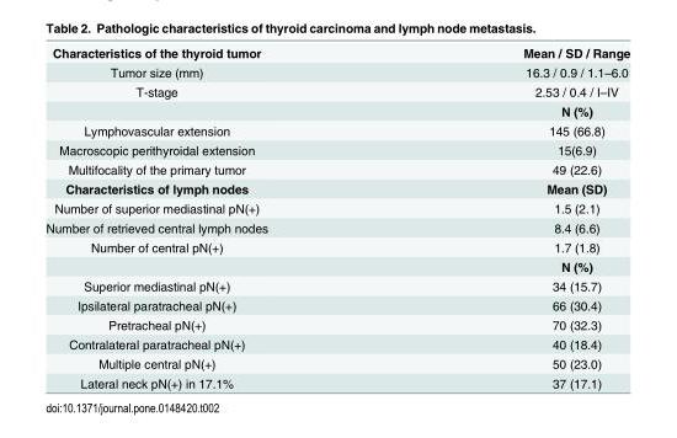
<table><tbody><tr><td>Characteristics of the thyroid tumor</td><td>Mean / SD / Range</td></tr><tr><td>Tumor size (mm)</td><td>16.3 / 0.9 / 1.1–6.0</td></tr><tr><td rowspan="2">T-stage</td><td>2.53 / 0.4 / I–IV</td></tr><tr><td>N (%)</td></tr><tr><td>Lymphovascular extension</td><td>145 (66.8)</td></tr><tr><td>Macroscopic perithyroidal extension</td><td>15(6.9)</td></tr><tr><td>Multifocality of the primary tumor</td><td>49 (22.6)</td></tr><tr><td>Characteristics of lymph nodes</td><td>Mean (SD)</td></tr><tr><td>Number of superior mediastinal pN(+)</td><td>1.5 (2.1)</td></tr><tr><td>Number of retrieved central lymph nodes</td><td>8.4 (6.6)</td></tr><tr><td rowspan="2">Number of central pN(+)</td><td>1.7 (1.8)</td></tr><tr><td>N (%)</td></tr><tr><td>Superior mediastinal pN(+)</td><td>34 (15.7)</td></tr><tr><td>Ipsilateral paratracheal pN(+)</td><td>66 (30.4)</td></tr><tr><td>Pretracheal pN(+)</td><td>70 (32.3)</td></tr><tr><td>Contralateral paratracheal pN(+)</td><td>40 (18.4)</td></tr><tr><td>Multiple central pN(+)</td><td>50 (23.0)</td></tr><tr><td>Lateral neck pN(+) in 17.1%</td><td>37 (17.1)</td></tr></tbody></table>